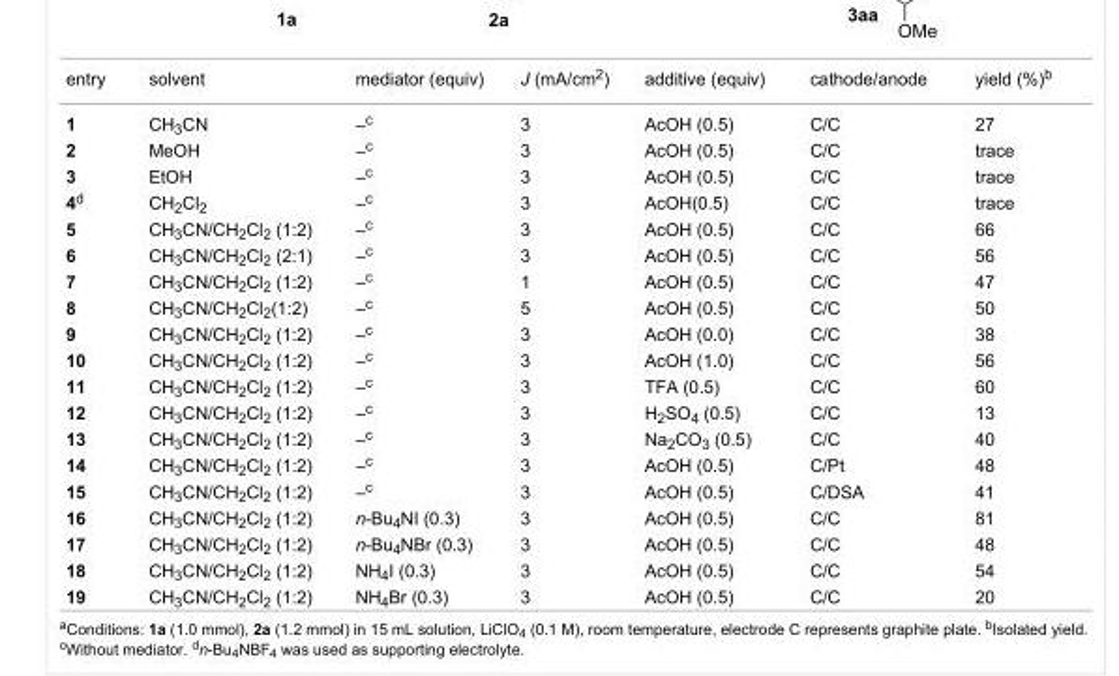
<table><tbody><tr><td>entry</td><td>solvent</td><td>mediator (equiv)</td><td>J (mA/cm<sup>2</sup>)</td><td>additive (equiv)</td><td>cathode/anode</td><td>yield (%)<sup>b</sup></td></tr><tr><td>1</td><td>CH<sub>3</sub>CN</td><td>–<sup>c</sup></td><td>3</td><td>AcOH (0.5)</td><td>C/C</td><td>27</td></tr><tr><td>2</td><td>MeOH</td><td>–<sup>c</sup></td><td>3</td><td>AcOH (0.5)</td><td>C/C</td><td>trace</td></tr><tr><td>3</td><td>EtOH</td><td>–<sup>c</sup></td><td>3</td><td>AcOH (0.5)</td><td>C/C</td><td>trace</td></tr><tr><td>4<sup>d</sup></td><td>CH<sub>2</sub>Cl<sub>2</sub></td><td>–<sup>c</sup></td><td>3</td><td>AcOH(0.5)</td><td>C/C</td><td>trace</td></tr><tr><td>5</td><td>CH<sub>3</sub>CN/CH<sub>2</sub>Cl<sub>2</sub> (1:2)</td><td>–<sup>c</sup></td><td>3</td><td>AcOH (0.5)</td><td>C/C</td><td>66</td></tr><tr><td>6</td><td>CH<sub>3</sub>CN/CH<sub>2</sub>Cl<sub>2</sub> (2:1)</td><td>–<sup>c</sup></td><td>3</td><td>AcOH (0.5)</td><td>C/C</td><td>56</td></tr><tr><td>7</td><td>CH<sub>3</sub>CN/CH<sub>2</sub>Cl<sub>2</sub> (1:2)</td><td>–<sup>c</sup></td><td>1</td><td>AcOH (0.5)</td><td>C/C</td><td>47</td></tr><tr><td>8</td><td>CH<sub>3</sub>CN/CH<sub>2</sub>Cl<sub>2</sub>(1:2)</td><td>–<sup>c</sup></td><td>5</td><td>AcOH (0.5)</td><td>C/C</td><td>50</td></tr><tr><td>9</td><td>CH<sub>3</sub>CN/CH<sub>2</sub>Cl<sub>2</sub> (1:2)</td><td>–<sup>c</sup></td><td>3</td><td>AcOH (0.0)</td><td>C/C</td><td>38</td></tr><tr><td>10</td><td>CH<sub>3</sub>CN/CH<sub>2</sub>Cl<sub>2</sub> (1:2)</td><td>–<sup>c</sup></td><td>3</td><td>AcOH (1.0)</td><td>C/C</td><td>56</td></tr><tr><td>11</td><td>CH<sub>3</sub>CN/CH<sub>2</sub>Cl<sub>2</sub> (1:2)</td><td>–<sup>c</sup></td><td>3</td><td>TFA (0.5)</td><td>C/C</td><td>60</td></tr><tr><td>12</td><td>CH<sub>3</sub>CN/CH<sub>2</sub>Cl<sub>2</sub> (1:2)</td><td>–<sup>c</sup></td><td>3</td><td>H<sub>2</sub>SO<sub>4</sub> (0.5)</td><td>C/C</td><td>13</td></tr><tr><td>13</td><td>CH<sub>3</sub>CN/CH<sub>2</sub>Cl<sub>2</sub> (1:2)</td><td>–<sup>c</sup></td><td>3</td><td>Na<sub>2</sub>CO<sub>3</sub> (0.5)</td><td>C/C</td><td>40</td></tr><tr><td>14</td><td>CH<sub>3</sub>CN/CH<sub>2</sub>Cl<sub>2</sub> (1:2)</td><td>–<sup>c</sup></td><td>3</td><td>AcOH (0.5)</td><td>C/Pt</td><td>48</td></tr><tr><td>15</td><td>CH<sub>3</sub>CN/CH<sub>2</sub>Cl<sub>2</sub> (1:2)</td><td>–<sup>c</sup></td><td>3</td><td>AcOH (0.5)</td><td>C/DSA</td><td>41</td></tr><tr><td>16</td><td>CH<sub>3</sub>CN/CH<sub>2</sub>Cl<sub>2</sub> (1:2)</td><td>n-Bu<sub>4</sub>NI (0.3)</td><td>3</td><td>AcOH (0.5)</td><td>C/C</td><td>81</td></tr><tr><td>17</td><td>CH<sub>3</sub>CN/CH<sub>2</sub>Cl<sub>2</sub> (1:2)</td><td>n-Bu<sub>4</sub>NBr (0.3)</td><td>3</td><td>AcOH (0.5)</td><td>C/C</td><td>48</td></tr><tr><td>18</td><td>CH<sub>3</sub>CN/CH<sub>2</sub>Cl<sub>2</sub> (1:2)</td><td>NH<sub>4</sub>I (0.3)</td><td>3</td><td>AcOH (0.5)</td><td>C/C</td><td>54</td></tr><tr><td>19</td><td>CH<sub>3</sub>CN/CH<sub>2</sub>Cl<sub>2</sub> (1:2)</td><td>NH<sub>4</sub>Br (0.3)</td><td>3</td><td>AcOH (0.5)</td><td>C/C</td><td>20</td></tr></tbody></table>